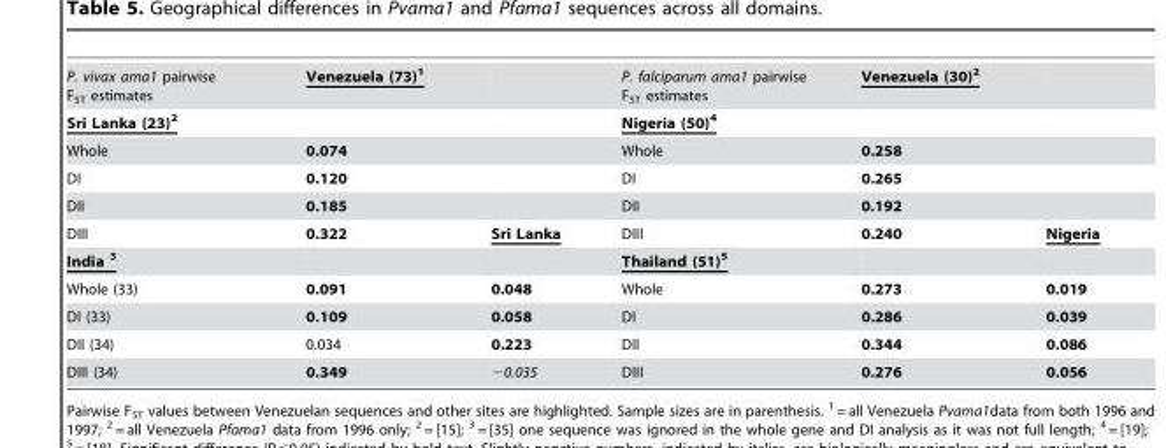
<table><tbody><tr><td>P. vivax ama1 pairwise F<sub>ST</sub> estimates</td><td>Venezuela (73)1</td><td></td><td>P. falciparum ama1 pairwise F<sub>ST</sub> estimates</td><td>Venezuela (30)2</td><td></td></tr><tr><td>Sri Lanka (23)2</td><td></td><td></td><td>Nigeria (50)4</td><td></td><td></td></tr><tr><td>Whole</td><td>0.074</td><td></td><td>Whole</td><td>0.258</td><td></td></tr><tr><td>DI</td><td>0.120</td><td></td><td>DI</td><td>0.265</td><td></td></tr><tr><td>DII</td><td>0.185</td><td></td><td>DII</td><td>0.192</td><td></td></tr><tr><td>DIII</td><td>0.322</td><td>Sri Lanka</td><td>DIII</td><td>0.240</td><td>Nigeria</td></tr><tr><td>India 3</td><td></td><td></td><td>Thailand (51)5</td><td></td><td></td></tr><tr><td>Whole (33)</td><td>0.091</td><td>0.048</td><td>Whole</td><td>0.273</td><td>0.019</td></tr><tr><td>DI (33)</td><td>0.109</td><td>0.058</td><td>DI</td><td>0.286</td><td>0.039</td></tr><tr><td>DII (34)</td><td>0.034</td><td>0.223</td><td>DII</td><td>0.344</td><td>0.086</td></tr><tr><td>DIII (34)</td><td>0.349</td><td>−0.035</td><td>DIII</td><td>0.276</td><td>0.056</td></tr></tbody></table>